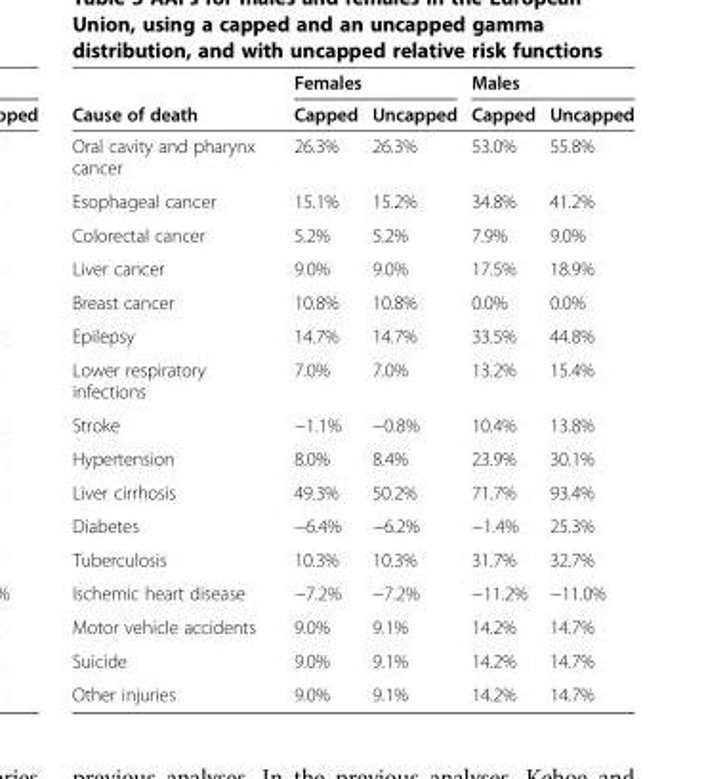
<table><thead><tr><td rowspan="2">Cause of death</td><td colspan="2">Females</td><td colspan="2">Males</td></tr><tr><td>Capped</td><td>Uncapped</td><td>Capped</td><td>Uncapped</td></tr></thead><tbody><tr><td>Oral cavity and pharynx cancer</td><td>26.3%</td><td>26.3%</td><td>53.0%</td><td>55.8%</td></tr><tr><td>Esophageal cancer</td><td>15.1%</td><td>15.2%</td><td>34.8%</td><td>41.2%</td></tr><tr><td>Colorectal cancer</td><td>5.2%</td><td>5.2%</td><td>7.9%</td><td>9.0%</td></tr><tr><td>Liver cancer</td><td>9.0%</td><td>9.0%</td><td>17.5%</td><td>18.9%</td></tr><tr><td>Breast cancer</td><td>10.8%</td><td>10.8%</td><td>0.0%</td><td>0.0%</td></tr><tr><td>Epilepsy</td><td>14.7%</td><td>14.7%</td><td>33.5%</td><td>44.8%</td></tr><tr><td>Lower respiratory infections</td><td>7.0%</td><td>7.0%</td><td>13.2%</td><td>15.4%</td></tr><tr><td>Stroke</td><td>−1.1%</td><td>−0.8%</td><td>10.4%</td><td>13.8%</td></tr><tr><td>Hypertension</td><td>8.0%</td><td>8.4%</td><td>23.9%</td><td>30.1%</td></tr><tr><td>Liver cirrhosis</td><td>49.3%</td><td>50.2%</td><td>71.7%</td><td>93.4%</td></tr><tr><td>Diabetes</td><td>−6.4%</td><td>−6.2%</td><td>−1.4%</td><td>25.3%</td></tr><tr><td>Tuberculosis</td><td>10.3%</td><td>10.3%</td><td>31.7%</td><td>32.7%</td></tr><tr><td>Ischemic heart disease</td><td>−7.2%</td><td>−7.2%</td><td>−11.2%</td><td>−11.0%</td></tr><tr><td>Motor vehicle accidents</td><td>9.0%</td><td>9.1%</td><td>14.2%</td><td>14.7%</td></tr><tr><td>Suicide</td><td>9.0%</td><td>9.1%</td><td>14.2%</td><td>14.7%</td></tr><tr><td>Other injuries</td><td>9.0%</td><td>9.1%</td><td>14.2%</td><td>14.7%</td></tr></tbody></table>